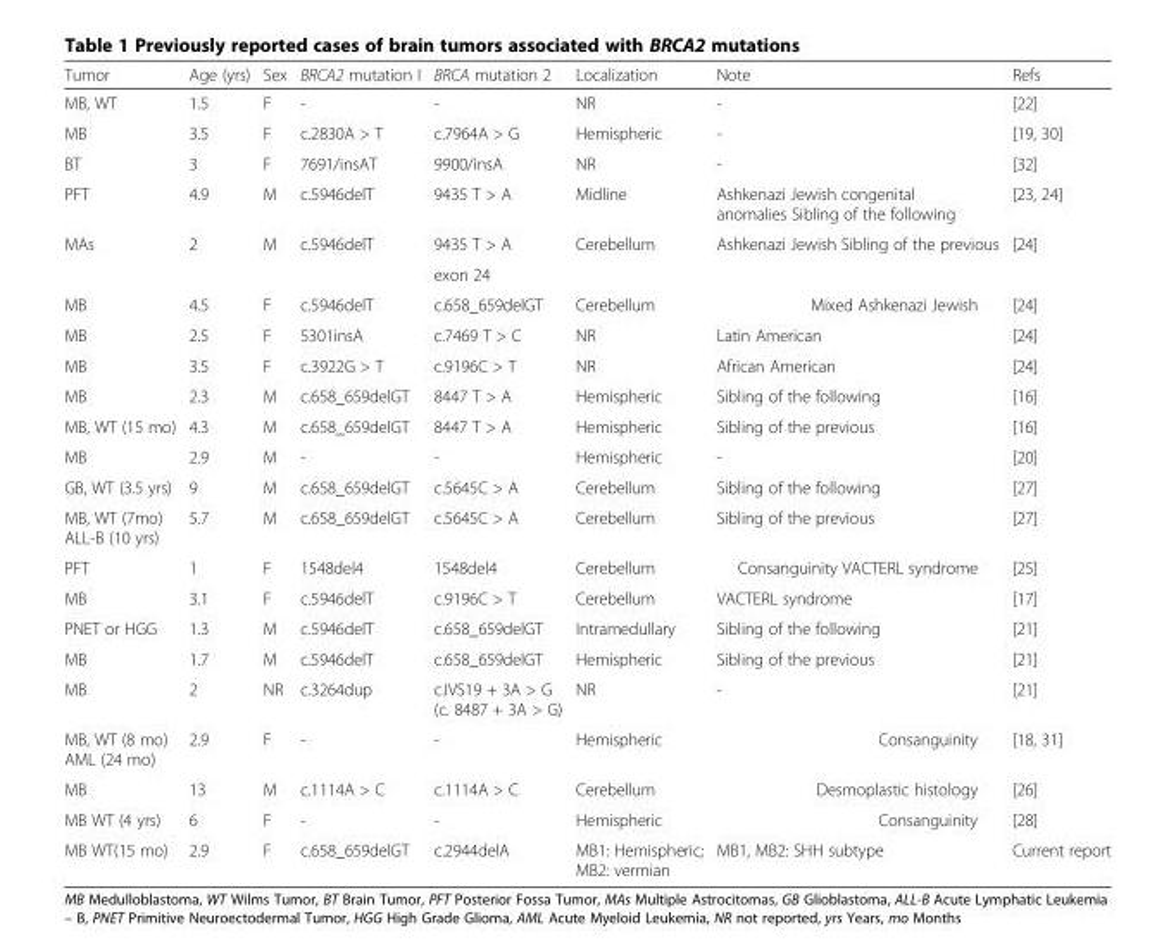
<table><thead><tr><td>Tumor</td><td>Age (yrs)</td><td>Sex</td><td>BRCA2 mutation I</td><td>BRCA mutation 2</td><td>Localization</td><td>Note</td><td>Refs</td></tr></thead><tbody><tr><td>MB, WT</td><td>1.5</td><td>F</td><td>-</td><td>-</td><td>NR</td><td>-</td><td>[22]</td></tr><tr><td>MB</td><td>3.5</td><td>F</td><td>c.2830A &gt; T</td><td>c.7964A &gt; G</td><td>Hemispheric</td><td>-</td><td>[19, 30]</td></tr><tr><td>BT</td><td>3</td><td>F</td><td>7691/insAT</td><td>9900/insA</td><td>NR</td><td>-</td><td>[32]</td></tr><tr><td>PFT</td><td>4.9</td><td>M</td><td>c.5946delT</td><td>9435 T &gt; A</td><td>Midline</td><td>Ashkenazi Jewish congenital anomalies Sibling of the following</td><td>[23, 24]</td></tr><tr><td rowspan="2">MAs</td><td rowspan="2">2</td><td rowspan="2">M</td><td rowspan="2">c.5946delT</td><td>9435 T &gt; A</td><td rowspan="2">Cerebellum</td><td rowspan="2">Ashkenazi Jewish Sibling of the previous</td><td rowspan="2">[24]</td></tr><tr><td>exon 24</td></tr><tr><td>MB</td><td>4.5</td><td>F</td><td>c.5946delT</td><td>c.658_659delGT</td><td>Cerebellum</td><td>Mixed Ashkenazi Jewish</td><td>[24]</td></tr><tr><td>MB</td><td>2.5</td><td>F</td><td>5301insA</td><td>c.7469 T &gt; C</td><td>NR</td><td>Latin American</td><td>[24]</td></tr><tr><td>MB</td><td>3.5</td><td>F</td><td>c.3922G &gt; T</td><td>c.9196C &gt; T</td><td>NR</td><td>African American</td><td>[24]</td></tr><tr><td>MB</td><td>2.3</td><td>M</td><td>c.658_659delGT</td><td>8447 T &gt; A</td><td>Hemispheric</td><td>Sibling of the following</td><td>[16]</td></tr><tr><td>MB, WT (15 mo)</td><td>4.3</td><td>M</td><td>c.658_659delGT</td><td>8447 T &gt; A</td><td>Hemispheric</td><td>Sibling of the previous</td><td>[16]</td></tr><tr><td>MB</td><td>2.9</td><td>M</td><td>-</td><td>-</td><td>Hemispheric</td><td>-</td><td>[20]</td></tr><tr><td>GB, WT (3.5 yrs)</td><td>9</td><td>M</td><td>c.658_659delGT</td><td>c.5645C &gt; A</td><td>Cerebellum</td><td>Sibling of the following</td><td>[27]</td></tr><tr><td>MB, WT (7mo) ALL-B (10 yrs)</td><td>5.7</td><td>M</td><td>c.658_659delGT</td><td>c.5645C &gt; A</td><td>Cerebellum</td><td>Sibling of the previous</td><td>[27]</td></tr><tr><td>PFT</td><td>1</td><td>F</td><td>1548del4</td><td>1548del4</td><td>Cerebellum</td><td>Consanguinity VACTERL syndrome</td><td>[25]</td></tr><tr><td>MB</td><td>3.1</td><td>F</td><td>c.5946delT</td><td>c.9196C &gt; T</td><td>Cerebellum</td><td>VACTERL syndrome</td><td>[17]</td></tr><tr><td>PNET or HGG</td><td>1.3</td><td>M</td><td>c.5946delT</td><td>c.658_659delGT</td><td>Intramedullary</td><td>Sibling of the following</td><td>[21]</td></tr><tr><td>MB</td><td>1.7</td><td>M</td><td>c.5946delT</td><td>c.658_659delGT</td><td>Hemispheric</td><td>Sibling of the previous</td><td>[21]</td></tr><tr><td>MB</td><td>2</td><td>NR</td><td>c.3264dup</td><td>c.IVS19 + 3A &gt; G (c. 8487 + 3A &gt; G)</td><td>NR</td><td>-</td><td>[21]</td></tr><tr><td>MB, WT (8 mo) AML (24 mo)</td><td>2.9</td><td>F</td><td>-</td><td>-</td><td>Hemispheric</td><td>Consanguinity</td><td>[18, 31]</td></tr><tr><td>MB</td><td>13</td><td>M</td><td>c.1114A &gt; C</td><td>c.1114A &gt; C</td><td>Cerebellum</td><td>Desmoplastic histology</td><td>[26]</td></tr><tr><td>MB WT (4 yrs)</td><td>6</td><td>F</td><td>-</td><td>-</td><td>Hemispheric</td><td>Consanguinity</td><td>[28]</td></tr><tr><td>MB WT(15 mo)</td><td>2.9</td><td>F</td><td>c.658_659delGT</td><td>c.2944delA</td><td>MB1: Hemispheric; MB2: vermian</td><td>MB1, MB2: SHH subtype</td><td>Current report</td></tr></tbody></table>